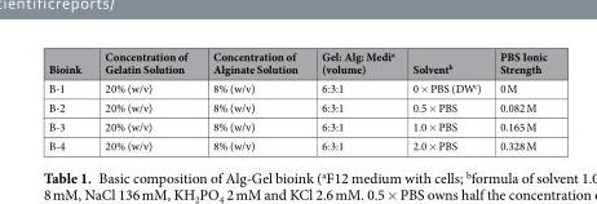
<table><thead><tr><td>Bioink</td><td>Concentration of Gelatin Solution</td><td>Concentration of Alginate Solution</td><td>Gel: Alg: Medi<sup>a</sup> (volume)</td><td>Solvent<sup>b</sup></td><td>PBS Ionic Strength</td></tr></thead><tbody><tr><td>B-1</td><td>20% (w/v)</td><td>8% (w/v)</td><td>6:3:1</td><td>0 × PBS (DW<sup>c</sup>)</td><td>0 M</td></tr><tr><td>B-2</td><td>20% (w/v)</td><td>8% (w/v)</td><td>6:3:1</td><td>0.5 × PBS</td><td>0.082 M</td></tr><tr><td>B-3</td><td>20% (w/v)</td><td>8% (w/v)</td><td>6:3:1</td><td>1.0 × PBS</td><td>0.165 M</td></tr><tr><td>B-4</td><td>20% (w/v)</td><td>8% (w/v)</td><td>6:3:1</td><td>2.0 × PBS</td><td>0.328 M</td></tr></tbody></table>